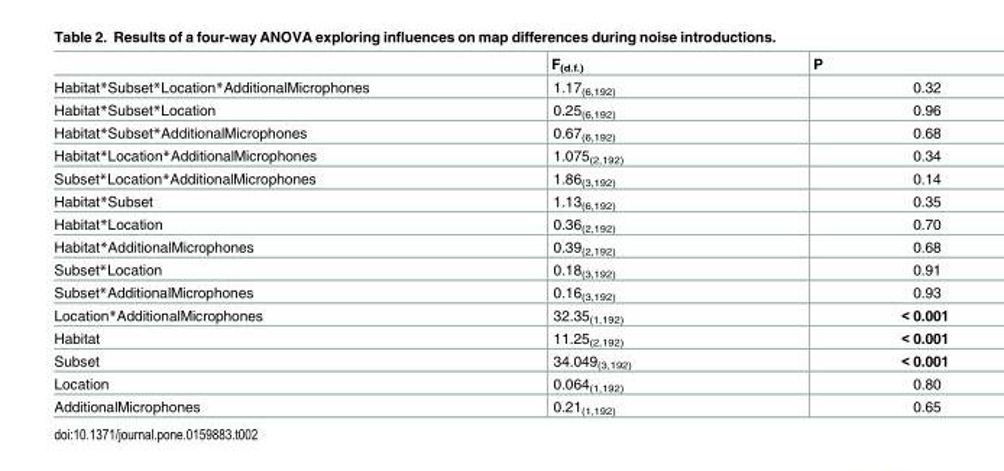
<table><thead><tr><td></td><td>F<sub>(d.f.)</sub></td><td>P</td></tr></thead><tbody><tr><td>Habitat*Subset*Location*AdditionalMicrophones</td><td>1.17<sub>(6,192)</sub></td><td>0.32</td></tr><tr><td>Habitat*Subset*Location</td><td>0.25<sub>(6,192)</sub></td><td>0.96</td></tr><tr><td>Habitat*Subset*AdditionalMicrophones</td><td>0.67<sub>(6,192)</sub></td><td>0.68</td></tr><tr><td>Habitat*Location*AdditionalMicrophones</td><td>1.075<sub>(2,192)</sub></td><td>0.34</td></tr><tr><td>Subset*Location*AdditionalMicrophones</td><td>1.86<sub>(3,192)</sub></td><td>0.14</td></tr><tr><td>Habitat*Subset</td><td>1.13<sub>(6,192)</sub></td><td>0.35</td></tr><tr><td>Habitat*Location</td><td>0.36<sub>(2,192)</sub></td><td>0.70</td></tr><tr><td>Habitat*AdditionalMicrophones</td><td>0.39<sub>(2,192)</sub></td><td>0.68</td></tr><tr><td>Subset*Location</td><td>0.18<sub>(3,192)</sub></td><td>0.91</td></tr><tr><td>Subset*AdditionalMicrophones</td><td>0.16<sub>(3,192)</sub></td><td>0.93</td></tr><tr><td>Location*AdditionalMicrophones</td><td>32.35<sub>(1,192)</sub></td><td>&lt; 0.001</td></tr><tr><td>Habitat</td><td>11.25<sub>(2,192)</sub></td><td>&lt; 0.001</td></tr><tr><td>Subset</td><td>34.049<sub>(3,192)</sub></td><td>&lt; 0.001</td></tr><tr><td>Location</td><td>0.064<sub>(1,192)</sub></td><td>0.80</td></tr><tr><td>AdditionalMicrophones</td><td>0.21<sub>(1,192)</sub></td><td>0.65</td></tr></tbody></table>